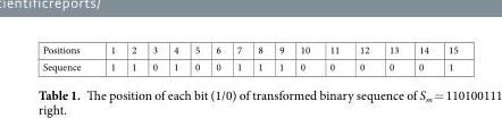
<table><tbody><tr><td>Positions</td><td>1</td><td>2</td><td>3</td><td>4</td><td>5</td><td>6</td><td>7</td><td>8</td><td>9</td><td>10</td><td>11</td><td>12</td><td>13</td><td>14</td><td>15</td></tr><tr><td>Sequence</td><td>1</td><td>1</td><td>0</td><td>1</td><td>0</td><td>0</td><td>1</td><td>1</td><td>1</td><td>0</td><td>0</td><td>0</td><td>0</td><td>0</td><td>1</td></tr></tbody></table>